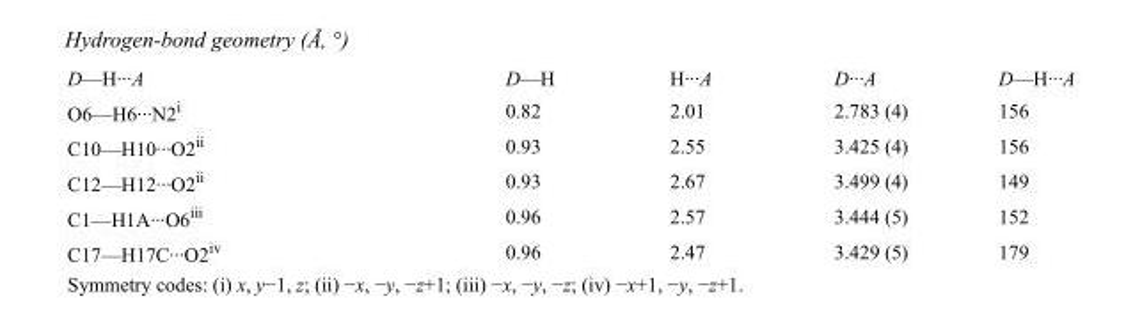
<table><tbody><tr><td>D—H···A</td><td>D—H</td><td>H···A</td><td>D···A</td><td>D—H···A</td></tr><tr><td>O6—H6···N2<sup>i</sup></td><td>0.82</td><td>2.01</td><td>2.783 (4)</td><td>156</td></tr><tr><td>C10—H10···O2<sup>ii</sup></td><td>0.93</td><td>2.55</td><td>3.425 (4)</td><td>156</td></tr><tr><td>C12—H12···O2<sup>ii</sup></td><td>0.93</td><td>2.67</td><td>3.499 (4)</td><td>149</td></tr><tr><td>C1—H1A···O6<sup>iii</sup></td><td>0.96</td><td>2.57</td><td>3.444 (5)</td><td>152</td></tr><tr><td>C17—H17C···O2<sup>iv</sup></td><td>0.96</td><td>2.47</td><td>3.429 (5)</td><td>179</td></tr></tbody></table>